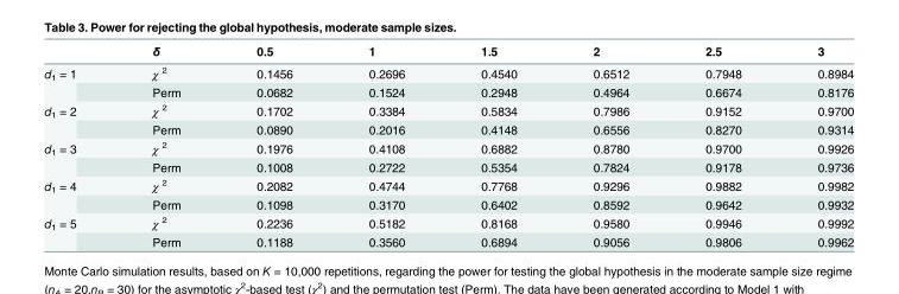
<table><thead><tr><td></td><td>δ</td><td>0.5</td><td>1</td><td>1.5</td><td>2</td><td>2.5</td><td>3</td></tr></thead><tbody><tr><td rowspan="2">d<sub>1</sub> = 1</td><td>χ <sup>2</sup></td><td>0.1456</td><td>0.2696</td><td>0.4540</td><td>0.6512</td><td>0.7948</td><td>0.8984</td></tr><tr><td>Perm</td><td>0.0682</td><td>0.1524</td><td>0.2948</td><td>0.4964</td><td>0.6674</td><td>0.8176</td></tr><tr><td rowspan="2">d<sub>1</sub> = 2</td><td>χ <sup>2</sup></td><td>0.1702</td><td>0.3384</td><td>0.5834</td><td>0.7986</td><td>0.9152</td><td>0.9700</td></tr><tr><td>Perm</td><td>0.0890</td><td>0.2016</td><td>0.4148</td><td>0.6556</td><td>0.8270</td><td>0.9314</td></tr><tr><td rowspan="2">d<sub>1</sub> = 3</td><td>χ <sup>2</sup></td><td>0.1976</td><td>0.4108</td><td>0.6882</td><td>0.8780</td><td>0.9700</td><td>0.9926</td></tr><tr><td>Perm</td><td>0.1008</td><td>0.2722</td><td>0.5354</td><td>0.7824</td><td>0.9178</td><td>0.9736</td></tr><tr><td rowspan="2">d<sub>1</sub> = 4</td><td>χ <sup>2</sup></td><td>0.2082</td><td>0.4744</td><td>0.7768</td><td>0.9296</td><td>0.9882</td><td>0.9982</td></tr><tr><td>Perm</td><td>0.1098</td><td>0.3170</td><td>0.6402</td><td>0.8592</td><td>0.9642</td><td>0.9932</td></tr><tr><td rowspan="2">d<sub>1</sub> = 5</td><td>χ <sup>2</sup></td><td>0.2236</td><td>0.5182</td><td>0.8168</td><td>0.9580</td><td>0.9946</td><td>0.9992</td></tr><tr><td>Perm</td><td>0.1188</td><td>0.3560</td><td>0.6894</td><td>0.9056</td><td>0.9806</td><td>0.9962</td></tr></tbody></table>